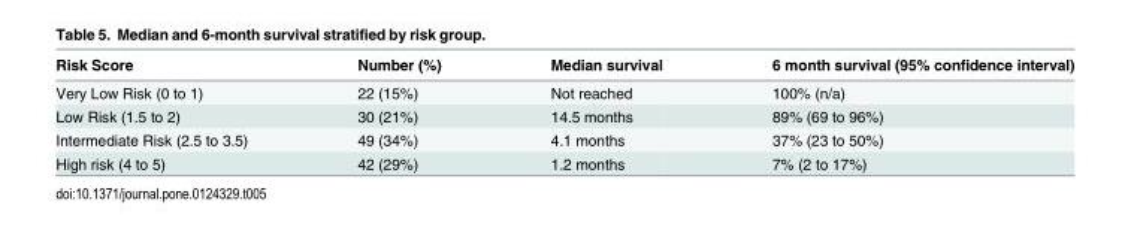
<table><thead><tr><td>Risk Score</td><td>Number (%)</td><td>Median survival</td><td>6 month survival (95% confidence interval)</td></tr></thead><tbody><tr><td>Very Low Risk (0 to 1)</td><td>22 (15%)</td><td>Not reached</td><td>100% (n/a)</td></tr><tr><td>Low Risk (1.5 to 2)</td><td>30 (21%)</td><td>14.5 months</td><td>89% (69 to 96%)</td></tr><tr><td>Intermediate Risk (2.5 to 3.5)</td><td>49 (34%)</td><td>4.1 months</td><td>37% (23 to 50%)</td></tr><tr><td>High risk (4 to 5)</td><td>42 (29%)</td><td>1.2 months</td><td>7% (2 to 17%)</td></tr></tbody></table>